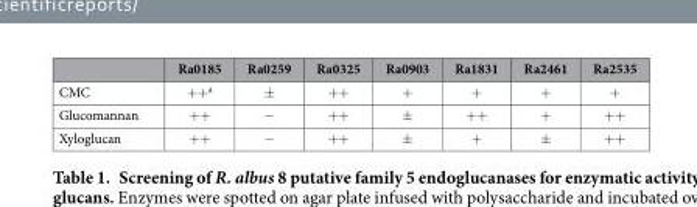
<table><thead><tr><td></td><td>Ra0185</td><td>Ra0259</td><td>Ra0325</td><td>Ra0903</td><td>Ra1831</td><td>Ra2461</td><td>Ra2535</td></tr></thead><tbody><tr><td>CMC</td><td>+ + <sup>a</sup></td><td>±</td><td>+ +</td><td>+</td><td>+</td><td>+</td><td>+</td></tr><tr><td>Glucomannan</td><td>+ +</td><td>−</td><td>+ +</td><td>±</td><td>+ +</td><td>+</td><td>+ +</td></tr><tr><td>Xyloglucan</td><td>+ +</td><td>−</td><td>+ +</td><td>±</td><td>+</td><td>±</td><td>+ +</td></tr></tbody></table>